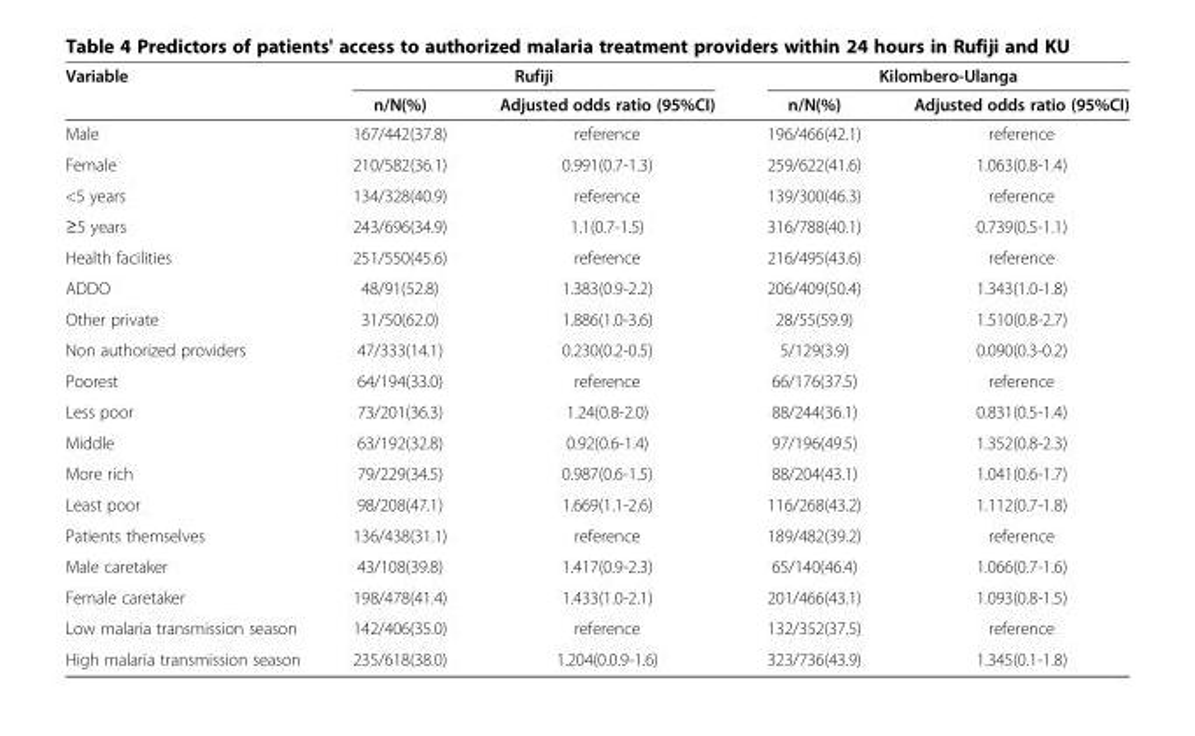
<table><thead><tr><td rowspan="2">Variable</td><td colspan="2">Rufiji</td><td colspan="2">Kilombero-Ulanga</td></tr><tr><td>n/N(%)</td><td>Adjusted odds ratio (95%CI)</td><td>n/N(%)</td><td>Adjusted odds ratio (95%CI)</td></tr></thead><tbody><tr><td>Male</td><td>167/442(37.8)</td><td>reference</td><td>196/466(42.1)</td><td>reference</td></tr><tr><td>Female</td><td>210/582(36.1)</td><td>0.991(0.7-1.3)</td><td>259/622(41.6)</td><td>1.063(0.8-1.4)</td></tr><tr><td>&lt;5 years</td><td>134/328(40.9)</td><td>reference</td><td>139/300(46.3)</td><td>reference</td></tr><tr><td>≥5 years</td><td>243/696(34.9)</td><td>1.1(0.7-1.5)</td><td>316/788(40.1)</td><td>0.739(0.5-1.1)</td></tr><tr><td>Health facilities</td><td>251/550(45.6)</td><td>reference</td><td>216/495(43.6)</td><td>reference</td></tr><tr><td>ADDO</td><td>48/91(52.8)</td><td>1.383(0.9-2.2)</td><td>206/409(50.4)</td><td>1.343(1.0-1.8)</td></tr><tr><td>Other private</td><td>31/50(62.0)</td><td>1.886(1.0-3.6)</td><td>28/55(59.9)</td><td>1.510(0.8-2.7)</td></tr><tr><td>Non authorized providers</td><td>47/333(14.1)</td><td>0.230(0.2-0.5)</td><td>5/129(3.9)</td><td>0.090(0.3-0.2)</td></tr><tr><td>Poorest</td><td>64/194(33.0)</td><td>reference</td><td>66/176(37.5)</td><td>reference</td></tr><tr><td>Less poor</td><td>73/201(36.3)</td><td>1.24(0.8-2.0)</td><td>88/244(36.1)</td><td>0.831(0.5-1.4)</td></tr><tr><td>Middle</td><td>63/192(32.8)</td><td>0.92(0.6-1.4)</td><td>97/196(49.5)</td><td>1.352(0.8-2.3)</td></tr><tr><td>More rich</td><td>79/229(34.5)</td><td>0.987(0.6-1.5)</td><td>88/204(43.1)</td><td>1.041(0.6-1.7)</td></tr><tr><td>Least poor</td><td>98/208(47.1)</td><td>1.669(1.1-2.6)</td><td>116/268(43.2)</td><td>1.112(0.7-1.8)</td></tr><tr><td>Patients themselves</td><td>136/438(31.1)</td><td>reference</td><td>189/482(39.2)</td><td>reference</td></tr><tr><td>Male caretaker</td><td>43/108(39.8)</td><td>1.417(0.9-2.3)</td><td>65/140(46.4)</td><td>1.066(0.7-1.6)</td></tr><tr><td>Female caretaker</td><td>198/478(41.4)</td><td>1.433(1.0-2.1)</td><td>201/466(43.1)</td><td>1.093(0.8-1.5)</td></tr><tr><td>Low malaria transmission season</td><td>142/406(35.0)</td><td>reference</td><td>132/352(37.5)</td><td>reference</td></tr><tr><td>High malaria transmission season</td><td>235/618(38.0)</td><td>1.204(0.0.9-1.6)</td><td>323/736(43.9)</td><td>1.345(0.1-1.8)</td></tr></tbody></table>